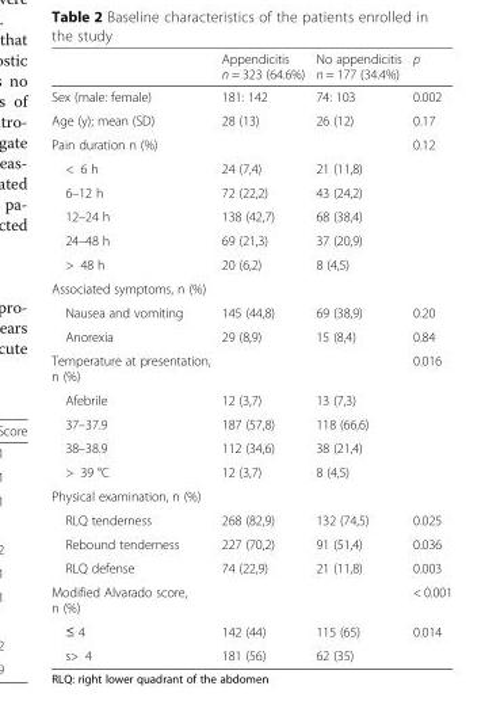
<table><thead><tr><td></td><td>Appendicitis n = 323 (64.6%)</td><td>No appendicitis n = 177 (34.4%)</td><td>p</td></tr></thead><tbody><tr><td>Sex (male: female)</td><td>181: 142</td><td>74: 103</td><td>0.002</td></tr><tr><td>Age (y); mean (SD)</td><td>28 (13)</td><td>26 (12)</td><td>0.17</td></tr><tr><td>Pain duration n (%)</td><td></td><td></td><td>0.12</td></tr><tr><td>&lt; 6 h</td><td>24 (7,4)</td><td>21 (11,8)</td><td></td></tr><tr><td>6–12 h</td><td>72 (22,2)</td><td>43 (24,2)</td><td></td></tr><tr><td>12–24 h</td><td>138 (42,7)</td><td>68 (38,4)</td><td></td></tr><tr><td>24–48 h</td><td>69 (21,3)</td><td>37 (20,9)</td><td></td></tr><tr><td>&gt; 48 h</td><td>20 (6,2)</td><td>8 (4,5)</td><td></td></tr><tr><td colspan="4">Associated symptoms, n (%)</td></tr><tr><td>Nausea and vomiting</td><td>145 (44,8)</td><td>69 (38,9)</td><td>0.20</td></tr><tr><td>Anorexia</td><td>29 (8,9)</td><td>15 (8,4)</td><td>0.84</td></tr><tr><td>Temperature at presentation, n (%)</td><td></td><td></td><td>0.016</td></tr><tr><td>Afebrile</td><td>12 (3,7)</td><td>13 (7,3)</td><td></td></tr><tr><td>37–37.9</td><td>187 (57,8)</td><td>118 (66,6)</td><td></td></tr><tr><td>38–38.9</td><td>112 (34,6)</td><td>38 (21,4)</td><td></td></tr><tr><td>&gt; 39 °C</td><td>12 (3,7)</td><td>8 (4,5)</td><td></td></tr><tr><td colspan="4">Physical examination, n (%)</td></tr><tr><td>RLQ tenderness</td><td>268 (82,9)</td><td>132 (74,5)</td><td>0.025</td></tr><tr><td>Rebound tenderness</td><td>227 (70,2)</td><td>91 (51,4)</td><td>0.036</td></tr><tr><td>RLQ defense</td><td>74 (22,9)</td><td>21 (11,8)</td><td>0.003</td></tr><tr><td>Modified Alvarado score, n (%)</td><td></td><td></td><td>&lt; 0.001</td></tr><tr><td>≤ 4</td><td>142 (44)</td><td>115 (65)</td><td>0.014</td></tr><tr><td>s&gt; 4</td><td>181 (56)</td><td>62 (35)</td><td></td></tr></tbody></table>